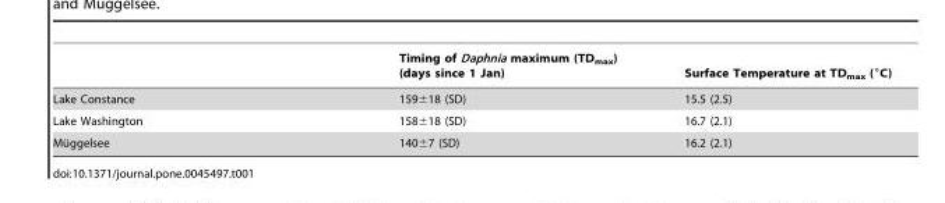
<table><thead><tr><td></td><td>Timing of Daphnia maximum (TD<sub>max</sub>) (days since 1 Jan)</td><td>Surface Temperature at TD<sub>max</sub> (°C)</td></tr></thead><tbody><tr><td>Lake Constance</td><td>159±18 (SD)</td><td>15.5 (2.5)</td></tr><tr><td>Lake Washington</td><td>158±18 (SD)</td><td>16.7 (2.1)</td></tr><tr><td>Mu¨ggelsee</td><td>140±7 (SD)</td><td>16.2 (2.1)</td></tr></tbody></table>